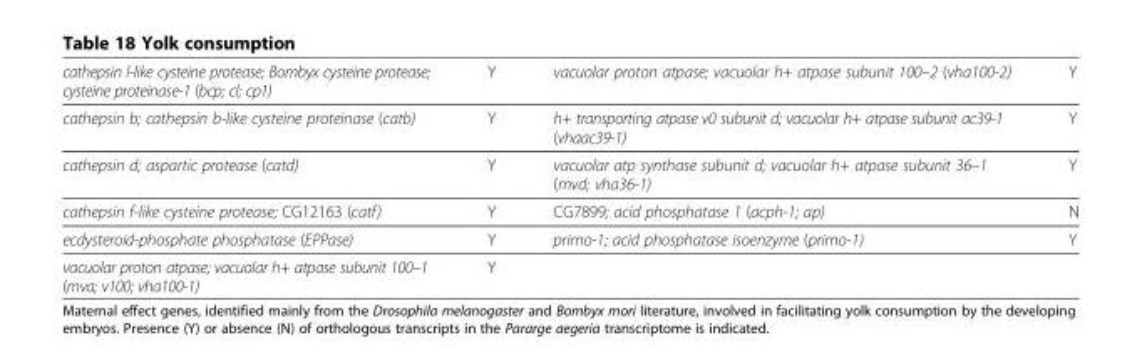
<table><tbody><tr><td>cathepsin l-like cysteine protease; Bombyx cysteine protease; cysteine proteinase-1 (bcp; cl; cp1)</td><td>Y</td><td>vacuolar proton atpase; vacuolar h+ atpase subunit 100–2 (vha100-2)</td><td>Y</td></tr><tr><td>cathepsin b; cathepsin b-like cysteine proteinase (catb)</td><td>Y</td><td>h+ transporting atpase v0 subunit d; vacuolar h+ atpase subunit ac39-1 (vhaac39-1)</td><td>Y</td></tr><tr><td>cathepsin d; aspartic protease (catd)</td><td>Y</td><td>vacuolar atp synthase subunit d; vacuolar h+ atpase subunit 36–1 (mvd; vha36-1)</td><td>Y</td></tr><tr><td>cathepsin f-like cysteine protease; CG12163 (catf)</td><td>Y</td><td>CG7899; acid phosphatase 1 (acph-1; ap)</td><td>N</td></tr><tr><td>ecdysteroid-phosphate phosphatase (EPPase)</td><td>Y</td><td>primo-1; acid phosphatase isoenzyme (primo-1)</td><td>Y</td></tr><tr><td>vacuolar proton atpase; vacuolar h+ atpase subunit 100–1 (mva; v100; vha100-1)</td><td>Y</td><td></td><td></td></tr></tbody></table>